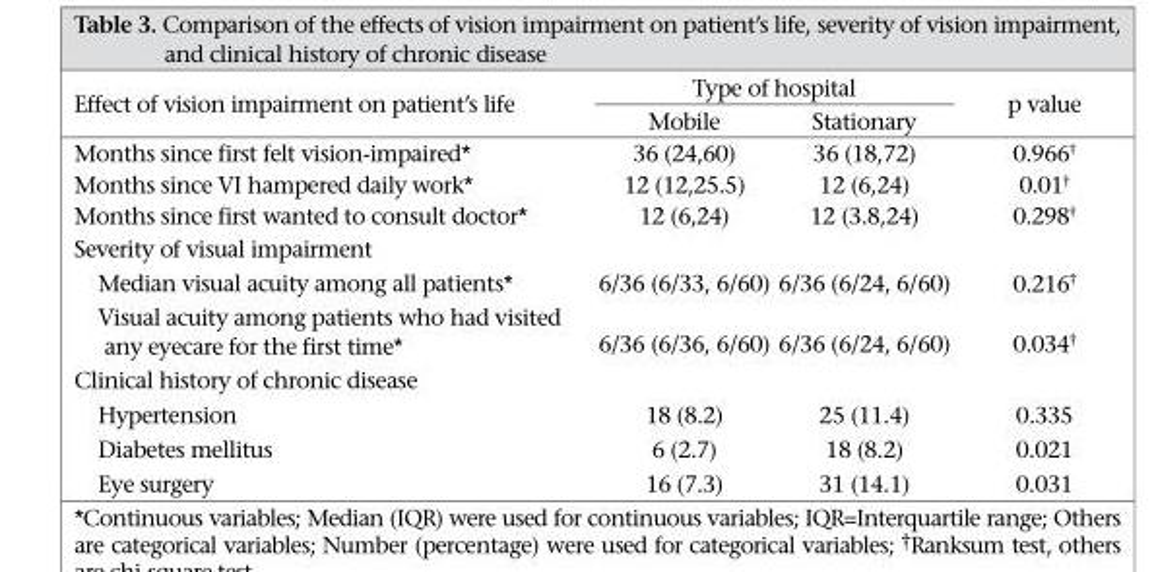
<table><thead><tr><td rowspan="2">Effect of vision impairment on patient’s life</td><td colspan="2">Type of hospital</td><td rowspan="2">p value</td></tr><tr><td>Mobile</td><td>Stationary</td></tr></thead><tbody><tr><td>Months since first felt vision-impaired*</td><td>36 (24,60)</td><td>36 (18,72)</td><td>0.966<sup>†</sup></td></tr><tr><td>Months since VI hampered daily work*</td><td>12 (12,25.5)</td><td>12 (6,24)</td><td>0.01<sup>†</sup></td></tr><tr><td>Months since first wanted to consult doctor*</td><td>12 (6,24)</td><td>12 (3.8,24)</td><td>0.298<sup>†</sup></td></tr><tr><td colspan="4">Severity of visual impairment</td></tr><tr><td>Median visual acuity among all patients*</td><td>6/36 (6/33, 6/60)</td><td>6/36 (6/24, 6/60)</td><td>0.216<sup>†</sup></td></tr><tr><td>Visual acuity among patients who had visited any eyecare for the first time*</td><td>6/36 (6/36, 6/60)</td><td>6/36 (6/24, 6/60)</td><td>0.034<sup>†</sup></td></tr><tr><td colspan="4">Clinical history of chronic disease</td></tr><tr><td>Hypertension</td><td>18 (8.2)</td><td>25 (11.4)</td><td>0.335</td></tr><tr><td>Diabetes mellitus</td><td>6 (2.7)</td><td>18 (8.2)</td><td>0.021</td></tr><tr><td>Eye surgery</td><td>16 (7.3)</td><td>31 (14.1)</td><td>0.031</td></tr></tbody></table>